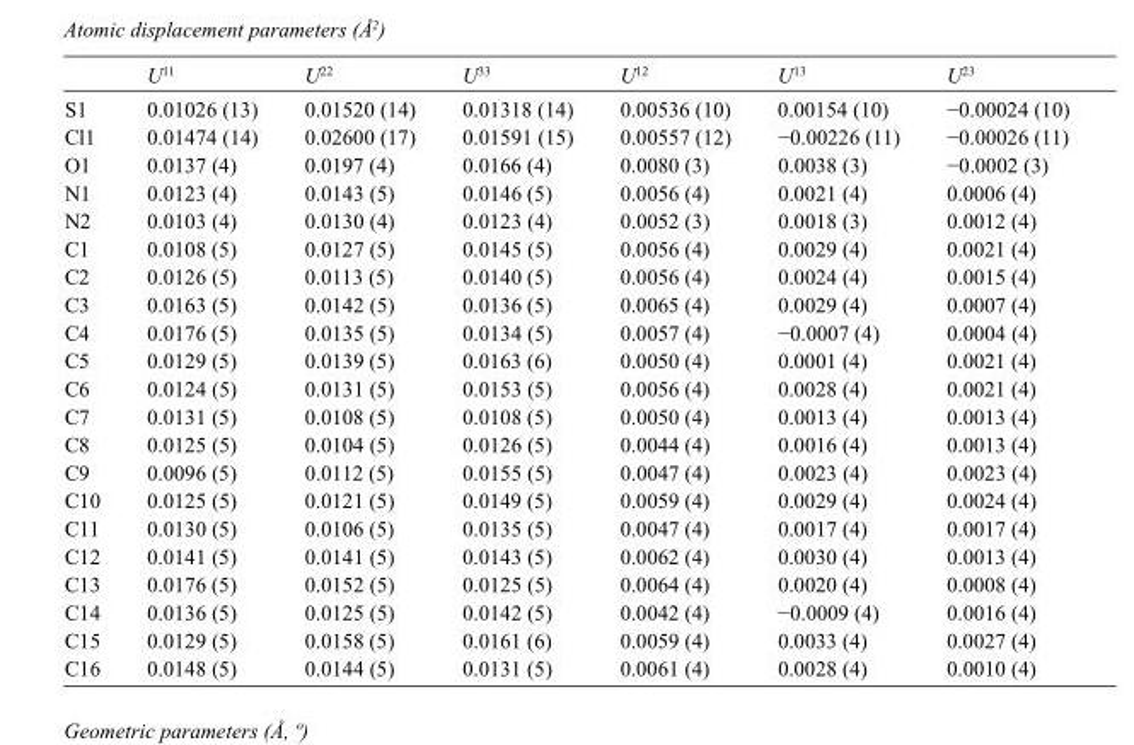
<table><thead><tr><td></td><td>U<sup>11</sup></td><td>U<sup>22</sup></td><td>U<sup>33</sup></td><td>U<sup>12</sup></td><td>U<sup>13</sup></td><td>U<sup>23</sup></td></tr></thead><tbody><tr><td>S1</td><td>0.01026 (13)</td><td>0.01520 (14)</td><td>0.01318 (14)</td><td>0.00536 (10)</td><td>0.00154 (10)</td><td>−0.00024 (10)</td></tr><tr><td>Cl1</td><td>0.01474 (14)</td><td>0.02600 (17)</td><td>0.01591 (15)</td><td>0.00557 (12)</td><td>−0.00226 (11)</td><td>−0.00026 (11)</td></tr><tr><td>O1</td><td>0.0137 (4)</td><td>0.0197 (4)</td><td>0.0166 (4)</td><td>0.0080 (3)</td><td>0.0038 (3)</td><td>−0.0002 (3)</td></tr><tr><td>N1</td><td>0.0123 (4)</td><td>0.0143 (5)</td><td>0.0146 (5)</td><td>0.0056 (4)</td><td>0.0021 (4)</td><td>0.0006 (4)</td></tr><tr><td>N2</td><td>0.0103 (4)</td><td>0.0130 (4)</td><td>0.0123 (4)</td><td>0.0052 (3)</td><td>0.0018 (3)</td><td>0.0012 (4)</td></tr><tr><td>C1</td><td>0.0108 (5)</td><td>0.0127 (5)</td><td>0.0145 (5)</td><td>0.0056 (4)</td><td>0.0029 (4)</td><td>0.0021 (4)</td></tr><tr><td>C2</td><td>0.0126 (5)</td><td>0.0113 (5)</td><td>0.0140 (5)</td><td>0.0056 (4)</td><td>0.0024 (4)</td><td>0.0015 (4)</td></tr><tr><td>C3</td><td>0.0163 (5)</td><td>0.0142 (5)</td><td>0.0136 (5)</td><td>0.0065 (4)</td><td>0.0029 (4)</td><td>0.0007 (4)</td></tr><tr><td>C4</td><td>0.0176 (5)</td><td>0.0135 (5)</td><td>0.0134 (5)</td><td>0.0057 (4)</td><td>−0.0007 (4)</td><td>0.0004 (4)</td></tr><tr><td>C5</td><td>0.0129 (5)</td><td>0.0139 (5)</td><td>0.0163 (6)</td><td>0.0050 (4)</td><td>0.0001 (4)</td><td>0.0021 (4)</td></tr><tr><td>C6</td><td>0.0124 (5)</td><td>0.0131 (5)</td><td>0.0153 (5)</td><td>0.0056 (4)</td><td>0.0028 (4)</td><td>0.0021 (4)</td></tr><tr><td>C7</td><td>0.0131 (5)</td><td>0.0108 (5)</td><td>0.0108 (5)</td><td>0.0050 (4)</td><td>0.0013 (4)</td><td>0.0013 (4)</td></tr><tr><td>C8</td><td>0.0125 (5)</td><td>0.0104 (5)</td><td>0.0126 (5)</td><td>0.0044 (4)</td><td>0.0016 (4)</td><td>0.0013 (4)</td></tr><tr><td>C9</td><td>0.0096 (5)</td><td>0.0112 (5)</td><td>0.0155 (5)</td><td>0.0047 (4)</td><td>0.0023 (4)</td><td>0.0023 (4)</td></tr><tr><td>C10</td><td>0.0125 (5)</td><td>0.0121 (5)</td><td>0.0149 (5)</td><td>0.0059 (4)</td><td>0.0029 (4)</td><td>0.0024 (4)</td></tr><tr><td>C11</td><td>0.0130 (5)</td><td>0.0106 (5)</td><td>0.0135 (5)</td><td>0.0047 (4)</td><td>0.0017 (4)</td><td>0.0017 (4)</td></tr><tr><td>C12</td><td>0.0141 (5)</td><td>0.0141 (5)</td><td>0.0143 (5)</td><td>0.0062 (4)</td><td>0.0030 (4)</td><td>0.0013 (4)</td></tr><tr><td>C13</td><td>0.0176 (5)</td><td>0.0152 (5)</td><td>0.0125 (5)</td><td>0.0064 (4)</td><td>0.0020 (4)</td><td>0.0008 (4)</td></tr><tr><td>C14</td><td>0.0136 (5)</td><td>0.0125 (5)</td><td>0.0142 (5)</td><td>0.0042 (4)</td><td>−0.0009 (4)</td><td>0.0016 (4)</td></tr><tr><td>C15</td><td>0.0129 (5)</td><td>0.0158 (5)</td><td>0.0161 (6)</td><td>0.0059 (4)</td><td>0.0033 (4)</td><td>0.0027 (4)</td></tr><tr><td>C16</td><td>0.0148 (5)</td><td>0.0144 (5)</td><td>0.0131 (5)</td><td>0.0061 (4)</td><td>0.0028 (4)</td><td>0.0010 (4)</td></tr></tbody></table>